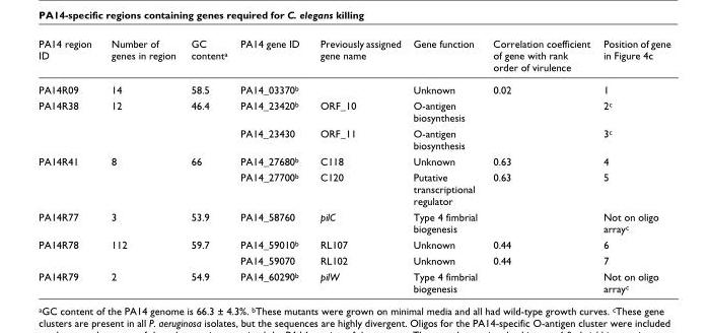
<table><thead><tr><td>PA14 region ID</td><td>Number of genes in region</td><td>GC contenta</td><td>PA14 gene ID</td><td>Previously assigned gene name</td><td>Gene function</td><td>Correlation coefficient of gene with rank order of virulence</td><td>Position of gene in Figure 4c</td></tr></thead><tbody><tr><td>PA14R09</td><td>14</td><td>58.5</td><td>PA14_03370b</td><td></td><td>Unknown</td><td>0.02</td><td>1</td></tr><tr><td rowspan="2">PA14R38</td><td>12</td><td>46.4</td><td>PA14_23420b</td><td>ORF_10</td><td>O-antigen biosynthesis</td><td></td><td>2c</td></tr><tr><td></td><td></td><td>PA14_23430</td><td>ORF_11</td><td>O-antigen biosynthesis</td><td></td><td>3c</td></tr><tr><td rowspan="2">PA14R41</td><td>8</td><td>66</td><td>PA14_27680b</td><td>C118</td><td>Unknown</td><td>0.63</td><td>4</td></tr><tr><td></td><td></td><td>PA14_27700b</td><td>C120</td><td>Putative transcriptional regulator</td><td>0.63</td><td>5</td></tr><tr><td>PA14R77</td><td>3</td><td>53.9</td><td>PA14_58760</td><td>pilC</td><td>Type 4 fimbrial biogenesis</td><td></td><td>Not on oligo arrayc</td></tr><tr><td rowspan="2">PA14R78</td><td>112</td><td>59.7</td><td>PA14_59010b</td><td>RL107</td><td>Unknown</td><td>0.44</td><td>6</td></tr><tr><td></td><td></td><td>PA14_59070</td><td>RL102</td><td>Unknown</td><td>0.44</td><td>7</td></tr><tr><td>PA14R79</td><td>2</td><td>54.9</td><td>PA14_60290b</td><td>pilW</td><td>Type 4 fimbrial biogenesis</td><td></td><td>Not on oligo arrayc</td></tr></tbody></table>